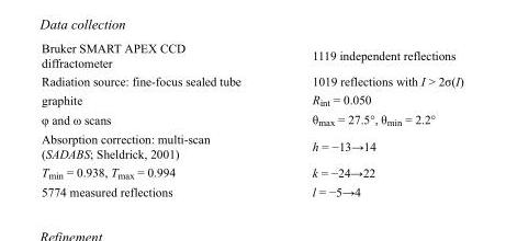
<table><tbody><tr><td>Bruker SMART APEX CCD diffractometer</td><td>1119 independent reflections</td></tr><tr><td>Radiation source: fine-focus sealed tube</td><td>1019 reflections with I &gt; 2σ(I)</td></tr><tr><td>graphite</td><td>R<sub>int</sub> = 0.050</td></tr><tr><td>φ and ω scans</td><td>θ<sub>max</sub> = 27.5°, θ<sub>min</sub> = 2.2°</td></tr><tr><td>Absorption correction: multi-scan (SADABS; Sheldrick, 2001)</td><td>h = −13→14</td></tr><tr><td>T<sub>min</sub> = 0.938, T<sub>max</sub> = 0.994</td><td>k = −24→22</td></tr><tr><td>5774 measured reflections</td><td>l = −5→4</td></tr></tbody></table>